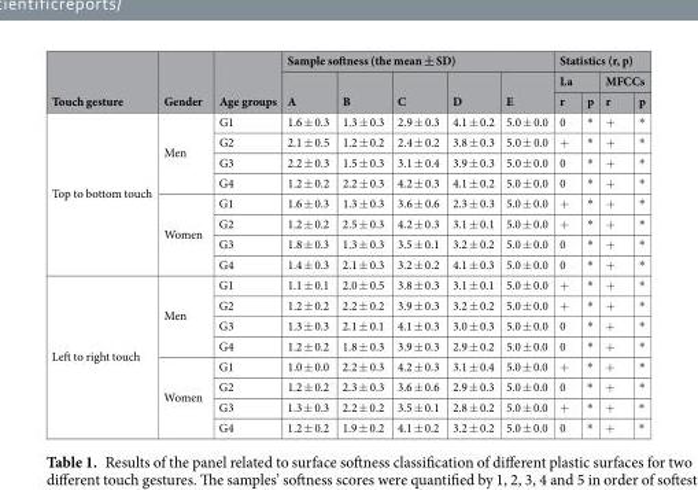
<table><thead><tr><td rowspan="3">Touch gesture</td><td rowspan="3">Gender</td><td rowspan="3">Age groups</td><td colspan="5">Sample softness (the mean ± SD)</td><td colspan="4">Statistics (r, p)</td></tr><tr><td rowspan="2">A</td><td rowspan="2">B</td><td rowspan="2">C</td><td rowspan="2">D</td><td rowspan="2">E</td><td colspan="2">La</td><td colspan="2">MFCCs</td></tr><tr><td>r</td><td>p</td><td>r</td><td>p</td></tr></thead><tbody><tr><td rowspan="8">Top to bottom touch</td><td rowspan="4">Men</td><td>G1</td><td>1.6 ± 0.3</td><td>1.3 ± 0.3</td><td>2.9 ± 0.3</td><td>4.1 ± 0.2</td><td>5.0 ± 0.0</td><td>0</td><td>*</td><td>+</td><td>*</td></tr><tr><td>G2</td><td>2.1 ± 0.5</td><td>1.2 ± 0.2</td><td>2.4 ± 0.2</td><td>3.8 ± 0.3</td><td>5.0 ± 0.0</td><td>+</td><td>*</td><td>+</td><td>*</td></tr><tr><td>G3</td><td>2.2 ± 0.3</td><td>1.5 ± 0.3</td><td>3.1 ± 0.4</td><td>3.9 ± 0.3</td><td>5.0 ± 0.0</td><td>0</td><td>*</td><td>+</td><td>*</td></tr><tr><td>G4</td><td>1.2 ± 0.2</td><td>2.2 ± 0.3</td><td>4.2 ± 0.3</td><td>4.1 ± 0.2</td><td>5.0 ± 0.0</td><td>0</td><td>*</td><td>+</td><td>*</td></tr><tr><td rowspan="4">Women</td><td>G1</td><td>1.6 ± 0.3</td><td>1.3 ± 0.3</td><td>3.6 ± 0.6</td><td>2.3 ± 0.3</td><td>5.0 ± 0.0</td><td>+</td><td>*</td><td>+</td><td>*</td></tr><tr><td>G2</td><td>1.2 ± 0.2</td><td>2.5 ± 0.3</td><td>4.2 ± 0.3</td><td>3.1 ± 0.1</td><td>5.0 ± 0.0</td><td>+</td><td>*</td><td>+</td><td>*</td></tr><tr><td>G3</td><td>1.8 ± 0.3</td><td>1.3 ± 0.3</td><td>3.5 ± 0.1</td><td>3.2 ± 0.2</td><td>5.0 ± 0.0</td><td>0</td><td>*</td><td>+</td><td>*</td></tr><tr><td>G4</td><td>1.4 ± 0.3</td><td>2.1 ± 0.3</td><td>3.2 ± 0.2</td><td>4.1 ± 0.3</td><td>5.0 ± 0.0</td><td>0</td><td>*</td><td>+</td><td>*</td></tr><tr><td rowspan="8">Left to right touch</td><td rowspan="4">Men</td><td>G1</td><td>1.1 ± 0.1</td><td>2.0 ± 0.5</td><td>3.8 ± 0.3</td><td>3.1 ± 0.1</td><td>5.0 ± 0.0</td><td>+</td><td>*</td><td>+</td><td>*</td></tr><tr><td>G2</td><td>1.2 ± 0.2</td><td>2.2 ± 0.2</td><td>3.9 ± 0.3</td><td>3.2 ± 0.2</td><td>5.0 ± 0.0</td><td>+</td><td>*</td><td>+</td><td>*</td></tr><tr><td>G3</td><td>1.3 ± 0.3</td><td>2.1 ± 0.1</td><td>4.1 ± 0.3</td><td>3.0 ± 0.3</td><td>5.0 ± 0.0</td><td>0</td><td>*</td><td>+</td><td>*</td></tr><tr><td>G4</td><td>1.2 ± 0.2</td><td>1.8 ± 0.3</td><td>3.9 ± 0.3</td><td>2.9 ± 0.2</td><td>5.0 ± 0.0</td><td>0</td><td>*</td><td>+</td><td>*</td></tr><tr><td rowspan="4">Women</td><td>G1</td><td>1.0 ± 0.0</td><td>2.2 ± 0.3</td><td>4.2 ± 0.3</td><td>3.1 ± 0.4</td><td>5.0 ± 0.0</td><td>+</td><td>*</td><td>+</td><td>*</td></tr><tr><td>G2</td><td>1.2 ± 0.2</td><td>2.3 ± 0.3</td><td>3.6 ± 0.6</td><td>2.9 ± 0.3</td><td>5.0 ± 0.0</td><td>0</td><td>*</td><td>+</td><td>*</td></tr><tr><td>G3</td><td>1.3 ± 0.3</td><td>2.2 ± 0.2</td><td>3.5 ± 0.1</td><td>2.8 ± 0.2</td><td>5.0 ± 0.0</td><td>+</td><td>*</td><td>+</td><td>*</td></tr><tr><td>G4</td><td>1.2 ± 0.2</td><td>1.9 ± 0.2</td><td>4.1 ± 0.2</td><td>3.2 ± 0.2</td><td>5.0 ± 0.0</td><td>0</td><td>*</td><td>+</td><td>*</td></tr></tbody></table>